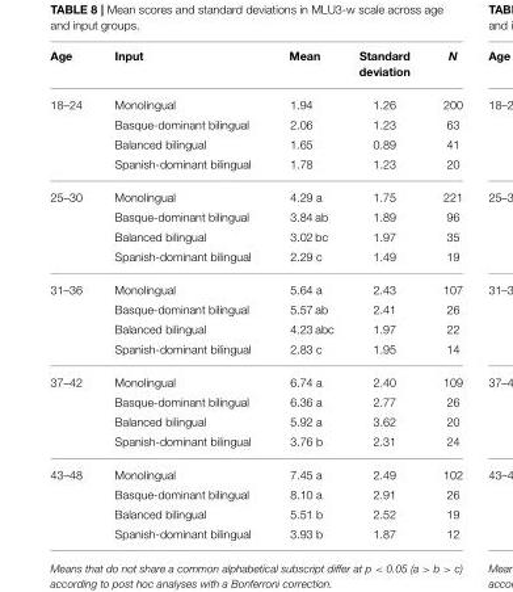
<table><thead><tr><td>Age</td><td>Input</td><td>Mean</td><td>Standard deviation</td><td>N</td></tr></thead><tbody><tr><td rowspan="4">18–24</td><td>Monolingual</td><td>1.94</td><td>1.26</td><td>200</td></tr><tr><td>Basque-dominant bilingual</td><td>2.06</td><td>1.23</td><td>63</td></tr><tr><td>Balanced bilingual</td><td>1.65</td><td>0.89</td><td>41</td></tr><tr><td>Spanish-dominant bilingual</td><td>1.78</td><td>1.23</td><td>20</td></tr><tr><td rowspan="4">25–30</td><td>Monolingual</td><td>4.29 a</td><td>1.75</td><td>221</td></tr><tr><td>Basque-dominant bilingual</td><td>3.84 ab</td><td>1.89</td><td>96</td></tr><tr><td>Balanced bilingual</td><td>3.02 bc</td><td>1.97</td><td>35</td></tr><tr><td>Spanish-dominant bilingual</td><td>2.29 c</td><td>1.49</td><td>19</td></tr><tr><td rowspan="4">31–36</td><td>Monolingual</td><td>5.64 a</td><td>2.43</td><td>107</td></tr><tr><td>Basque-dominant bilingual</td><td>5.57 ab</td><td>2.41</td><td>26</td></tr><tr><td>Balanced bilingual</td><td>4.23 abc</td><td>1.97</td><td>22</td></tr><tr><td>Spanish-dominant bilingual</td><td>2.83 c</td><td>1.95</td><td>14</td></tr><tr><td rowspan="4">37–42</td><td>Monolingual</td><td>6.74 a</td><td>2.40</td><td>109</td></tr><tr><td>Basque-dominant bilingual</td><td>6.36 a</td><td>2.77</td><td>26</td></tr><tr><td>Balanced bilingual</td><td>5.92 a</td><td>3.62</td><td>20</td></tr><tr><td>Spanish-dominant bilingual</td><td>3.76 b</td><td>2.31</td><td>24</td></tr><tr><td rowspan="4">43–48</td><td>Monolingual</td><td>7.45 a</td><td>2.49</td><td>102</td></tr><tr><td>Basque-dominant bilingual</td><td>8.10 a</td><td>2.91</td><td>26</td></tr><tr><td>Balanced bilingual</td><td>5.51 b</td><td>2.52</td><td>19</td></tr><tr><td>Spanish-dominant bilingual</td><td>3.93 b</td><td>1.87</td><td>12</td></tr></tbody></table>